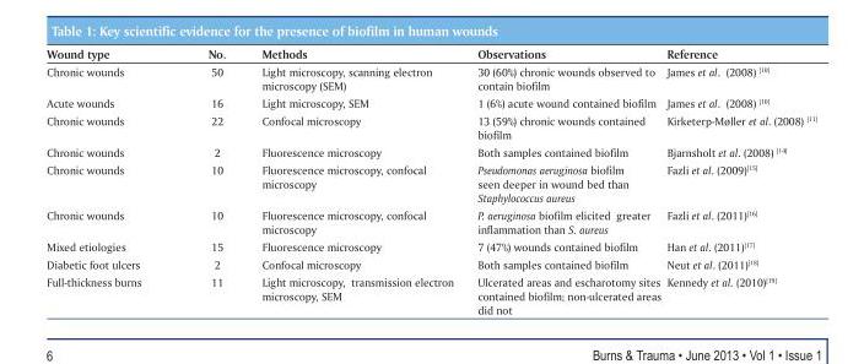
<table><thead><tr><td>Wound type</td><td>No.</td><td>Methods</td><td>Observations</td><td>Reference</td></tr></thead><tbody><tr><td>Chronic wounds</td><td>50</td><td>Light microscopy, scanning electron microscopy (SEM)</td><td>30 (60%) chronic wounds observed to contain biofilm</td><td>James et al. (2008) [10]</td></tr><tr><td>Acute wounds</td><td>16</td><td>Light microscopy, SEM</td><td>1 (6%) acute wound contained biofilm</td><td>James et al. (2008) [10]</td></tr><tr><td>Chronic wounds</td><td>22</td><td>Confocal microscopy</td><td>13 (59%) chronic wounds contained biofilm</td><td>Kirketerp-Møller et al. (2008) [11]</td></tr><tr><td>Chronic wounds</td><td>2</td><td>Fluorescence microscopy</td><td>Both samples contained biofilm</td><td>Bjarnsholt et al. (2008) [14]</td></tr><tr><td>Chronic wounds</td><td>10</td><td>Fluorescence microscopy, confocal microscopy</td><td>Pseudomonas aeruginosa biofilm seen deeper in wound bed than Staphylococcus aureus</td><td>Fazli et al. (2009)[15]</td></tr><tr><td>Chronic wounds</td><td>10</td><td>Fluorescence microscopy, confocal microscopy</td><td>P. aeruginosa biofilm elicited greater inflammation than S. aureus</td><td>Fazli et al. (2011)[16]</td></tr><tr><td>Mixed etiologies</td><td>15</td><td>Fluorescence microscopy</td><td>7 (47%) wounds contained biofilm</td><td>Han et al. (2011)[17]</td></tr><tr><td>Diabetic foot ulcers</td><td>2</td><td>Confocal microscopy</td><td>Both samples contained biofilm</td><td>Neut et al. (2011)[18]</td></tr><tr><td>Full-thickness burns</td><td>11</td><td>Light microscopy, transmission electron microscopy, SEM</td><td>Ulcerated areas and escharotomy sites contained biofilm; non-ulcerated areas did not</td><td>Kennedy et al. (2010)[19]</td></tr></tbody></table>